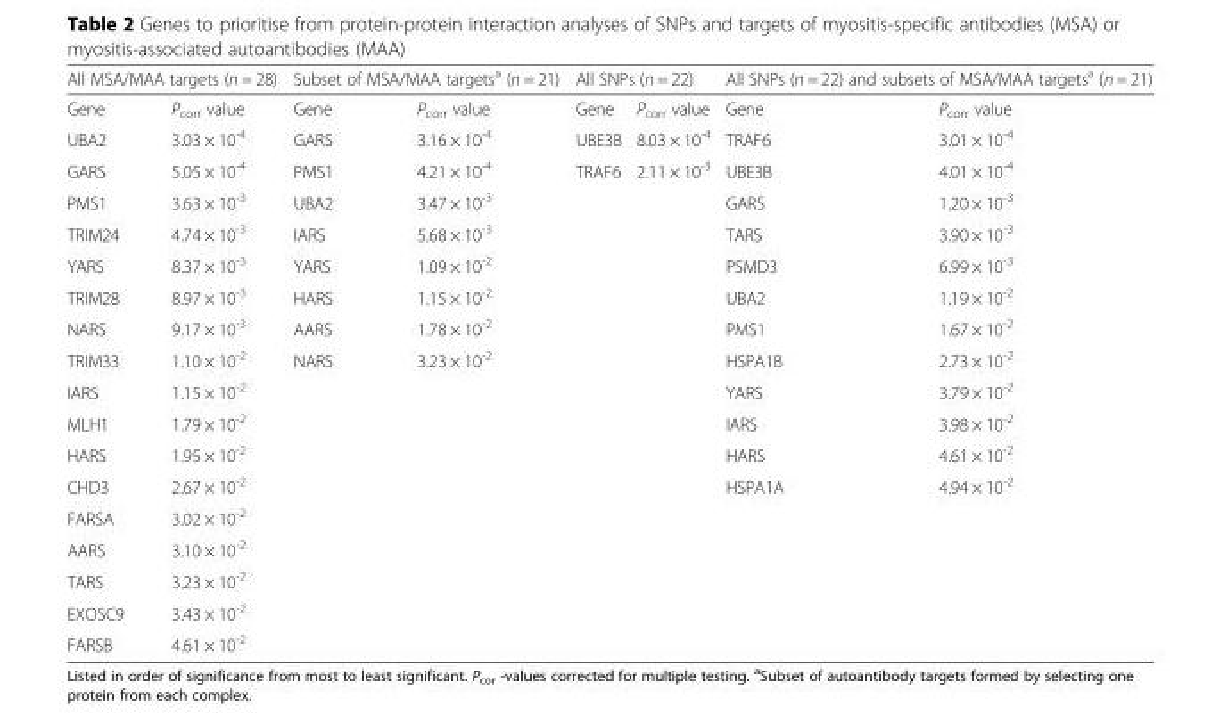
<table><thead><tr><td colspan="2">All MSA/MAA targets (n = 28)</td><td colspan="2">Subset of MSA/MAA targets<sup>a</sup> (n = 21)</td><td colspan="2">All SNPs (n = 22)</td><td colspan="2">All SNPs (n = 22) and subsets of MSA/MAA targets<sup>a</sup> (n = 21)</td></tr><tr><td>Gene</td><td>P<sub>corr</sub> value</td><td>Gene</td><td>P<sub>corr</sub> value</td><td>Gene</td><td>P<sub>corr</sub> value</td><td>Gene</td><td>P<sub>corr</sub> value</td></tr></thead><tbody><tr><td>UBA2</td><td>3.03 × 10<sup>-4</sup></td><td>GARS</td><td>3.16 × 10<sup>-4</sup></td><td>UBE3B</td><td>8.03 × 10<sup>-4</sup></td><td>TRAF6</td><td>3.01 × 10<sup>-4</sup></td></tr><tr><td>GARS</td><td>5.05 × 10<sup>-4</sup></td><td>PMS1</td><td>4.21 × 10<sup>-4</sup></td><td>TRAF6</td><td>2.11 × 10<sup>-3</sup></td><td>UBE3B</td><td>4.01 × 10<sup>-4</sup></td></tr><tr><td>PMS1</td><td>3.63 × 10<sup>-3</sup></td><td>UBA2</td><td>3.47 × 10<sup>-3</sup></td><td></td><td></td><td>GARS</td><td>1.20 × 10<sup>-3</sup></td></tr><tr><td>TRIM24</td><td>4.74 × 10<sup>-3</sup></td><td>IARS</td><td>5.68 × 10<sup>-3</sup></td><td></td><td></td><td>TARS</td><td>3.90 × 10<sup>-3</sup></td></tr><tr><td>YARS</td><td>8.37 × 10<sup>-3</sup></td><td>YARS</td><td>1.09 × 10<sup>-2</sup></td><td></td><td></td><td>PSMD3</td><td>6.99 × 10<sup>-3</sup></td></tr><tr><td>TRIM28</td><td>8.97 × 10<sup>-3</sup></td><td>HARS</td><td>1.15 × 10<sup>-2</sup></td><td></td><td></td><td>UBA2</td><td>1.19 × 10<sup>-2</sup></td></tr><tr><td>NARS</td><td>9.17 × 10<sup>-3</sup></td><td>AARS</td><td>1.78 × 10<sup>-2</sup></td><td></td><td></td><td>PMS1</td><td>1.67 × 10<sup>-2</sup></td></tr><tr><td>TRIM33</td><td>1.10 × 10<sup>-2</sup></td><td>NARS</td><td>3.23 × 10<sup>-2</sup></td><td></td><td></td><td>HSPA1B</td><td>2.73 × 10<sup>-2</sup></td></tr><tr><td>IARS</td><td>1.15 × 10<sup>-2</sup></td><td></td><td></td><td></td><td></td><td>YARS</td><td>3.79 × 10<sup>-2</sup></td></tr><tr><td>MLH1</td><td>1.79 × 10<sup>-2</sup></td><td></td><td></td><td></td><td></td><td>IARS</td><td>3.98 × 10<sup>-2</sup></td></tr><tr><td>HARS</td><td>1.95 × 10<sup>-2</sup></td><td></td><td></td><td></td><td></td><td>HARS</td><td>4.61 × 10<sup>-2</sup></td></tr><tr><td>CHD3</td><td>2.67 × 10<sup>-2</sup></td><td></td><td></td><td></td><td></td><td>HSPA1A</td><td>4.94 × 10<sup>-2</sup></td></tr><tr><td>FARSA</td><td>3.02 × 10<sup>-2</sup></td><td></td><td></td><td></td><td></td><td></td><td></td></tr><tr><td>AARS</td><td>3.10 × 10<sup>-2</sup></td><td></td><td></td><td></td><td></td><td></td><td></td></tr><tr><td>TARS</td><td>3.23 × 10<sup>-2</sup></td><td></td><td></td><td></td><td></td><td></td><td></td></tr><tr><td>EXOSC9</td><td>3.43 × 10<sup>-2</sup></td><td></td><td></td><td></td><td></td><td></td><td></td></tr><tr><td>FARSB</td><td>4.61 × 10<sup>-2</sup></td><td></td><td></td><td></td><td></td><td></td><td></td></tr></tbody></table>